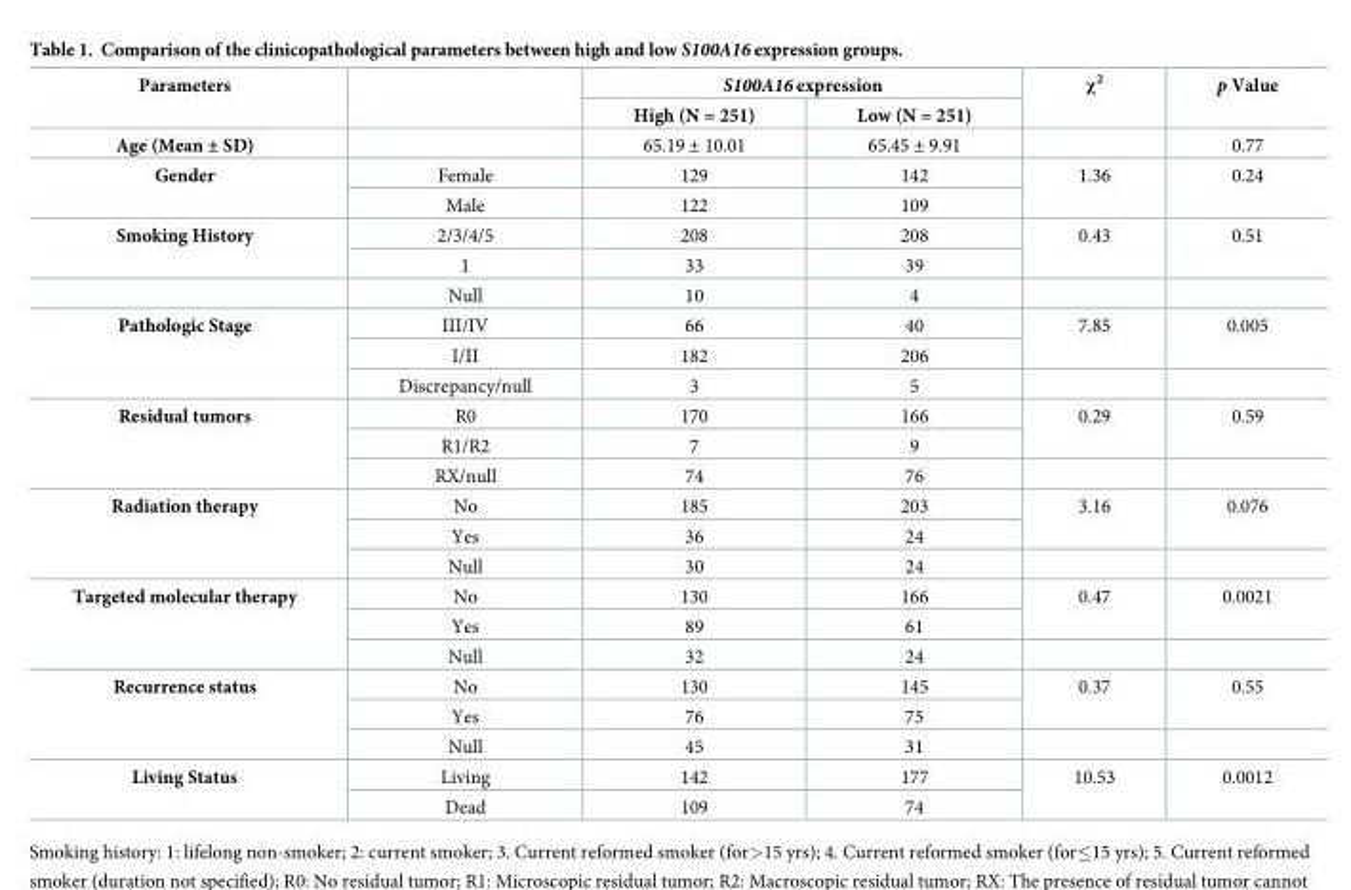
<table><thead><tr><td rowspan="2">Parameters</td><td rowspan="2"></td><td colspan="2">S100A16 expression</td><td rowspan="2">χ<sup>2</sup></td><td rowspan="2">p Value</td></tr><tr><td>High (N = 251)</td><td>Low (N = 251)</td></tr></thead><tbody><tr><td>Age (Mean ± SD)</td><td></td><td>65.19 ± 10.01</td><td>65.45 ± 9.91</td><td></td><td>0.77</td></tr><tr><td rowspan="2">Gender</td><td>Female</td><td>129</td><td>142</td><td rowspan="2">1.36</td><td rowspan="2">0.24</td></tr><tr><td>Male</td><td>122</td><td>109</td></tr><tr><td rowspan="3">Smoking History</td><td>2/3/4/5</td><td>208</td><td>208</td><td rowspan="2">0.43</td><td rowspan="2">0.51</td></tr><tr><td>1</td><td>33</td><td>39</td></tr><tr><td>Null</td><td>10</td><td>4</td><td></td><td></td></tr><tr><td rowspan="3">Pathologic Stage</td><td>III/IV</td><td>66</td><td>40</td><td rowspan="2">7.85</td><td rowspan="2">0.005</td></tr><tr><td>I/II</td><td>182</td><td>206</td></tr><tr><td>Discrepancy/null</td><td>3</td><td>5</td><td></td><td></td></tr><tr><td rowspan="3">Residual tumors</td><td>R0</td><td>170</td><td>166</td><td rowspan="2">0.29</td><td rowspan="2">0.59</td></tr><tr><td>R1/R2</td><td>7</td><td>9</td></tr><tr><td>RX/null</td><td>74</td><td>76</td><td></td><td></td></tr><tr><td rowspan="3">Radiation therapy</td><td>No</td><td>185</td><td>203</td><td rowspan="2">3.16</td><td rowspan="2">0.076</td></tr><tr><td>Yes</td><td>36</td><td>24</td></tr><tr><td>Null</td><td>30</td><td>24</td><td></td><td></td></tr><tr><td rowspan="3">Targeted molecular therapy</td><td>No</td><td>130</td><td>166</td><td rowspan="2">0.47</td><td rowspan="2">0.0021</td></tr><tr><td>Yes</td><td>89</td><td>61</td></tr><tr><td>Null</td><td>32</td><td>24</td><td></td><td></td></tr><tr><td rowspan="3">Recurrence status</td><td>No</td><td>130</td><td>145</td><td rowspan="2">0.37</td><td rowspan="2">0.55</td></tr><tr><td>Yes</td><td>76</td><td>75</td></tr><tr><td>Null</td><td>45</td><td>31</td><td></td><td></td></tr><tr><td rowspan="2">Living Status</td><td>Living</td><td>142</td><td>177</td><td rowspan="2">10.53</td><td rowspan="2">0.0012</td></tr><tr><td>Dead</td><td>109</td><td>74</td></tr></tbody></table>